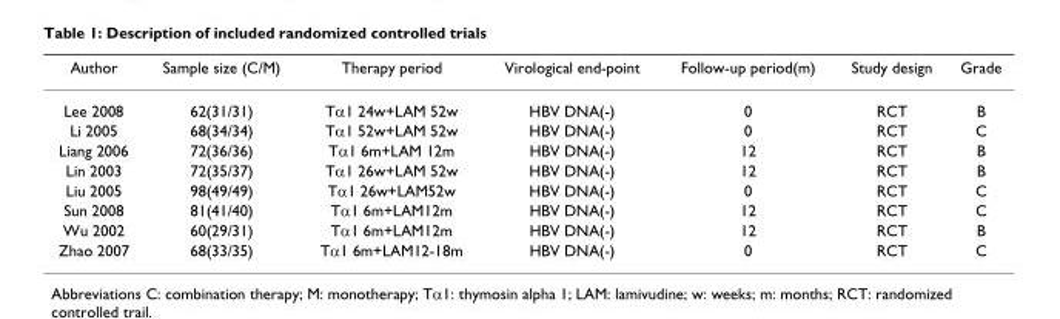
<table><thead><tr><td>Author</td><td>Sample size (C/M)</td><td>Therapy period</td><td>Virological end-point</td><td>Follow-up period(m)</td><td>Study design</td><td>Grade</td></tr></thead><tbody><tr><td>Lee 2008</td><td>62(31/31)</td><td>Tα1 24w+LAM 52w</td><td>HBV DNA(-)</td><td>0</td><td>RCT</td><td>B</td></tr><tr><td>Li 2005</td><td>68(34/34)</td><td>Tα1 52w+LAM 52w</td><td>HBV DNA(-)</td><td>0</td><td>RCT</td><td>C</td></tr><tr><td>Liang 2006</td><td>72(36/36)</td><td>Tα1 6m+LAM 12m</td><td>HBV DNA(-)</td><td>12</td><td>RCT</td><td>B</td></tr><tr><td>Lin 2003</td><td>72(35/37)</td><td>Tα1 26w+LAM 52w</td><td>HBV DNA(-)</td><td>12</td><td>RCT</td><td>B</td></tr><tr><td>Liu 2005</td><td>98(49/49)</td><td>Tα1 26w+LAM52w</td><td>HBV DNA(-)</td><td>0</td><td>RCT</td><td>C</td></tr><tr><td>Sun 2008</td><td>81(41/40)</td><td>Tα1 6m+LAM12m</td><td>HBV DNA(-)</td><td>12</td><td>RCT</td><td>C</td></tr><tr><td>Wu 2002</td><td>60(29/31)</td><td>Tα1 6m+LAM12m</td><td>HBV DNA(-)</td><td>12</td><td>RCT</td><td>B</td></tr><tr><td>Zhao 2007</td><td>68(33/35)</td><td>Tα1 6m+LAM12-18m</td><td>HBV DNA(-)</td><td>0</td><td>RCT</td><td>C</td></tr></tbody></table>